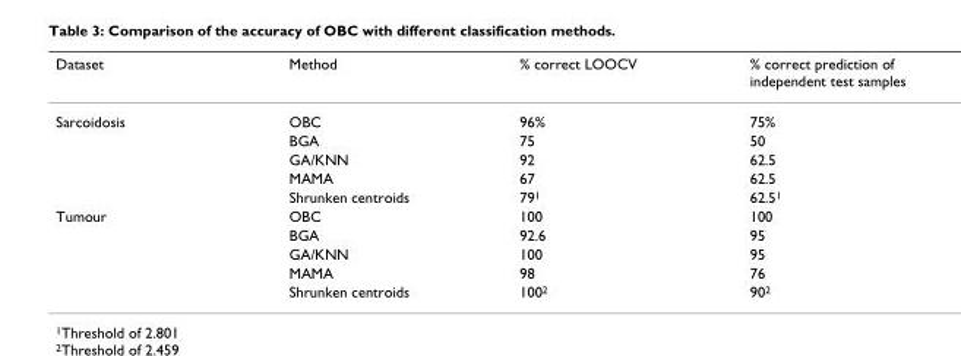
<table><thead><tr><td>Dataset</td><td>Method</td><td>% correct LOOCV</td><td>% correct prediction of independent test samples</td></tr></thead><tbody><tr><td rowspan="5">Sarcoidosis</td><td>OBC</td><td>96%</td><td>75%</td></tr><tr><td>BGA</td><td>75</td><td>50</td></tr><tr><td>GA/KNN</td><td>92</td><td>62.5</td></tr><tr><td>MAMA</td><td>67</td><td>62.5</td></tr><tr><td>Shrunken centroids</td><td>79<sup>1</sup></td><td>62.5<sup>1</sup></td></tr><tr><td rowspan="5">Tumour</td><td>OBC</td><td>100</td><td>100</td></tr><tr><td>BGA</td><td>92.6</td><td>95</td></tr><tr><td>GA/KNN</td><td>100</td><td>95</td></tr><tr><td>MAMA</td><td>98</td><td>76</td></tr><tr><td>Shrunken centroids</td><td>100<sup>2</sup></td><td>90<sup>2</sup></td></tr></tbody></table>